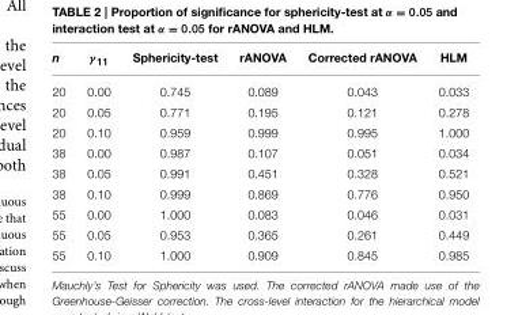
<table><thead><tr><td>n</td><td>γ <sub>11</sub></td><td>Sphericity-test</td><td>rANOVA</td><td>Corrected rANOVA</td><td>HLM</td></tr></thead><tbody><tr><td>20</td><td>0.00</td><td>0.745</td><td>0.089</td><td>0.043</td><td>0.033</td></tr><tr><td>20</td><td>0.05</td><td>0.771</td><td>0.195</td><td>0.121</td><td>0.278</td></tr><tr><td>20</td><td>0.10</td><td>0.959</td><td>0.999</td><td>0.995</td><td>1.000</td></tr><tr><td>38</td><td>0.00</td><td>0.987</td><td>0.107</td><td>0.051</td><td>0.034</td></tr><tr><td>38</td><td>0.05</td><td>0.991</td><td>0.451</td><td>0.328</td><td>0.521</td></tr><tr><td>38</td><td>0.10</td><td>0.999</td><td>0.869</td><td>0.776</td><td>0.950</td></tr><tr><td>55</td><td>0.00</td><td>1.000</td><td>0.083</td><td>0.046</td><td>0.031</td></tr><tr><td>55</td><td>0.05</td><td>0.953</td><td>0.365</td><td>0.261</td><td>0.449</td></tr><tr><td>55</td><td>0.10</td><td>1.000</td><td>0.909</td><td>0.845</td><td>0.985</td></tr></tbody></table>